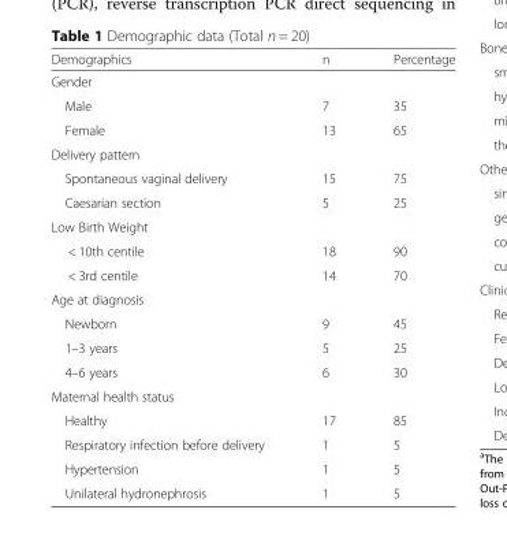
<table><thead><tr><td>Demographics</td><td>n</td><td>Percentage</td></tr></thead><tbody><tr><td colspan="3">Gender</td></tr><tr><td>Male</td><td>7</td><td>35</td></tr><tr><td>Female</td><td>13</td><td>65</td></tr><tr><td colspan="3">Delivery pattern</td></tr><tr><td>Spontaneous vaginal delivery</td><td>15</td><td>75</td></tr><tr><td>Caesarian section</td><td>5</td><td>25</td></tr><tr><td colspan="3">Low Birth Weight</td></tr><tr><td>&lt; 10th centile</td><td>18</td><td>90</td></tr><tr><td>&lt; 3rd centile</td><td>14</td><td>70</td></tr><tr><td colspan="3">Age at diagnosis</td></tr><tr><td>Newborn</td><td>9</td><td>45</td></tr><tr><td>1–3 years</td><td>5</td><td>25</td></tr><tr><td>4–6 years</td><td>6</td><td>30</td></tr><tr><td colspan="3">Maternal health status</td></tr><tr><td>Healthy</td><td>17</td><td>85</td></tr><tr><td>Respiratory infection before delivery</td><td>1</td><td>5</td></tr><tr><td>Hypertension</td><td>1</td><td>5</td></tr><tr><td>Unilateral hydronephrosis</td><td>1</td><td>5</td></tr></tbody></table>